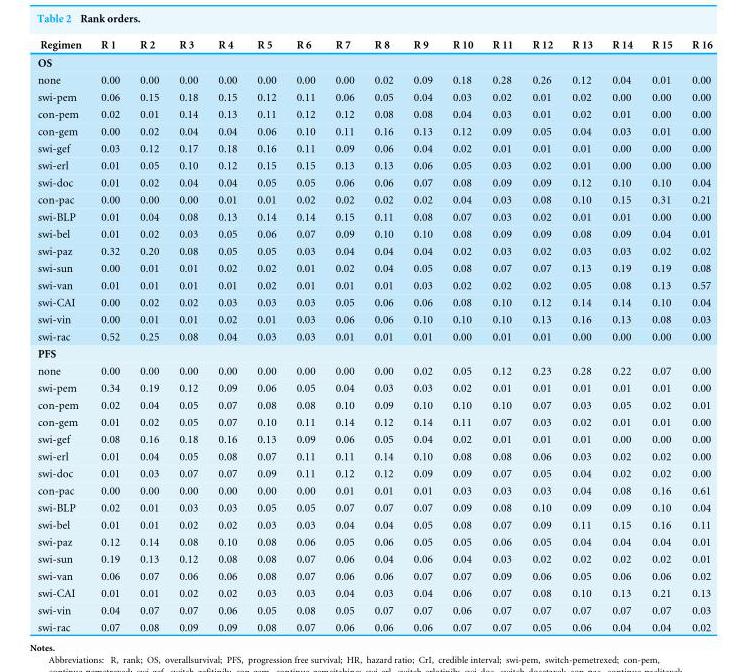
<table><thead><tr><td>Regimen</td><td>R 1</td><td>R 2</td><td>R 3</td><td>R 4</td><td>R 5</td><td>R 6</td><td>R 7</td><td>R 8</td><td>R 9</td><td>R 10</td><td>R 11</td><td>R 12</td><td>R 13</td><td>R 14</td><td>R 15</td><td>R 16</td></tr></thead><tbody><tr><td colspan="17">OS</td></tr><tr><td>none</td><td>0.00</td><td>0.00</td><td>0.00</td><td>0.00</td><td>0.00</td><td>0.00</td><td>0.00</td><td>0.02</td><td>0.09</td><td>0.18</td><td>0.28</td><td>0.26</td><td>0.12</td><td>0.04</td><td>0.01</td><td>0.00</td></tr><tr><td>swi-pem</td><td>0.06</td><td>0.15</td><td>0.18</td><td>0.15</td><td>0.12</td><td>0.11</td><td>0.06</td><td>0.05</td><td>0.04</td><td>0.03</td><td>0.02</td><td>0.01</td><td>0.02</td><td>0.00</td><td>0.00</td><td>0.00</td></tr><tr><td>con-pem</td><td>0.02</td><td>0.01</td><td>0.14</td><td>0.13</td><td>0.11</td><td>0.12</td><td>0.12</td><td>0.08</td><td>0.08</td><td>0.04</td><td>0.03</td><td>0.01</td><td>0.02</td><td>0.01</td><td>0.00</td><td>0.00</td></tr><tr><td>con-gem</td><td>0.00</td><td>0.02</td><td>0.04</td><td>0.04</td><td>0.06</td><td>0.10</td><td>0.11</td><td>0.16</td><td>0.13</td><td>0.12</td><td>0.09</td><td>0.05</td><td>0.04</td><td>0.03</td><td>0.01</td><td>0.00</td></tr><tr><td>swi-gef</td><td>0.03</td><td>0.12</td><td>0.17</td><td>0.18</td><td>0.16</td><td>0.11</td><td>0.09</td><td>0.06</td><td>0.04</td><td>0.02</td><td>0.01</td><td>0.01</td><td>0.01</td><td>0.00</td><td>0.00</td><td>0.00</td></tr><tr><td>swi-erl</td><td>0.01</td><td>0.05</td><td>0.10</td><td>0.12</td><td>0.15</td><td>0.15</td><td>0.13</td><td>0.13</td><td>0.06</td><td>0.05</td><td>0.03</td><td>0.02</td><td>0.01</td><td>0.00</td><td>0.00</td><td>0.00</td></tr><tr><td>swi-doc</td><td>0.01</td><td>0.02</td><td>0.04</td><td>0.04</td><td>0.05</td><td>0.05</td><td>0.06</td><td>0.06</td><td>0.07</td><td>0.08</td><td>0.09</td><td>0.09</td><td>0.12</td><td>0.10</td><td>0.10</td><td>0.04</td></tr><tr><td>con-pac</td><td>0.00</td><td>0.00</td><td>0.00</td><td>0.01</td><td>0.01</td><td>0.02</td><td>0.02</td><td>0.02</td><td>0.02</td><td>0.04</td><td>0.03</td><td>0.08</td><td>0.10</td><td>0.15</td><td>0.31</td><td>0.21</td></tr><tr><td>swi-BLP</td><td>0.01</td><td>0.04</td><td>0.08</td><td>0.13</td><td>0.14</td><td>0.14</td><td>0.15</td><td>0.11</td><td>0.08</td><td>0.07</td><td>0.03</td><td>0.02</td><td>0.01</td><td>0.01</td><td>0.00</td><td>0.00</td></tr><tr><td>swi-bel</td><td>0.01</td><td>0.02</td><td>0.03</td><td>0.05</td><td>0.06</td><td>0.07</td><td>0.09</td><td>0.10</td><td>0.10</td><td>0.08</td><td>0.09</td><td>0.09</td><td>0.08</td><td>0.09</td><td>0.04</td><td>0.01</td></tr><tr><td>swi-paz</td><td>0.32</td><td>0.20</td><td>0.08</td><td>0.05</td><td>0.05</td><td>0.03</td><td>0.04</td><td>0.04</td><td>0.04</td><td>0.02</td><td>0.03</td><td>0.02</td><td>0.03</td><td>0.03</td><td>0.02</td><td>0.02</td></tr><tr><td>swi-sun</td><td>0.00</td><td>0.01</td><td>0.01</td><td>0.02</td><td>0.02</td><td>0.01</td><td>0.02</td><td>0.04</td><td>0.05</td><td>0.08</td><td>0.07</td><td>0.07</td><td>0.13</td><td>0.19</td><td>0.19</td><td>0.08</td></tr><tr><td>swi-van</td><td>0.01</td><td>0.01</td><td>0.01</td><td>0.01</td><td>0.02</td><td>0.01</td><td>0.01</td><td>0.01</td><td>0.03</td><td>0.02</td><td>0.02</td><td>0.02</td><td>0.05</td><td>0.08</td><td>0.13</td><td>0.57</td></tr><tr><td>swi-CAI</td><td>0.00</td><td>0.02</td><td>0.02</td><td>0.03</td><td>0.03</td><td>0.03</td><td>0.05</td><td>0.06</td><td>0.06</td><td>0.08</td><td>0.10</td><td>0.12</td><td>0.14</td><td>0.14</td><td>0.10</td><td>0.04</td></tr><tr><td>swi-vin</td><td>0.00</td><td>0.01</td><td>0.01</td><td>0.02</td><td>0.01</td><td>0.03</td><td>0.06</td><td>0.06</td><td>0.10</td><td>0.10</td><td>0.10</td><td>0.13</td><td>0.16</td><td>0.13</td><td>0.08</td><td>0.03</td></tr><tr><td>swi-rac</td><td>0.52</td><td>0.25</td><td>0.08</td><td>0.04</td><td>0.03</td><td>0.03</td><td>0.01</td><td>0.01</td><td>0.01</td><td>0.00</td><td>0.01</td><td>0.01</td><td>0.00</td><td>0.00</td><td>0.00</td><td>0.00</td></tr><tr><td colspan="17">PFS</td></tr><tr><td>none</td><td>0.00</td><td>0.00</td><td>0.00</td><td>0.00</td><td>0.00</td><td>0.00</td><td>0.00</td><td>0.00</td><td>0.02</td><td>0.05</td><td>0.12</td><td>0.23</td><td>0.28</td><td>0.22</td><td>0.07</td><td>0.00</td></tr><tr><td>swi-pem</td><td>0.34</td><td>0.19</td><td>0.12</td><td>0.09</td><td>0.06</td><td>0.05</td><td>0.04</td><td>0.03</td><td>0.03</td><td>0.02</td><td>0.01</td><td>0.01</td><td>0.01</td><td>0.01</td><td>0.01</td><td>0.00</td></tr><tr><td>con-pem</td><td>0.02</td><td>0.04</td><td>0.05</td><td>0.07</td><td>0.08</td><td>0.08</td><td>0.10</td><td>0.09</td><td>0.10</td><td>0.10</td><td>0.10</td><td>0.07</td><td>0.03</td><td>0.05</td><td>0.02</td><td>0.01</td></tr><tr><td>con-gem</td><td>0.01</td><td>0.02</td><td>0.05</td><td>0.07</td><td>0.10</td><td>0.11</td><td>0.14</td><td>0.12</td><td>0.14</td><td>0.11</td><td>0.07</td><td>0.03</td><td>0.02</td><td>0.01</td><td>0.01</td><td>0.00</td></tr><tr><td>swi-gef</td><td>0.08</td><td>0.16</td><td>0.18</td><td>0.16</td><td>0.13</td><td>0.09</td><td>0.06</td><td>0.05</td><td>0.04</td><td>0.02</td><td>0.01</td><td>0.01</td><td>0.01</td><td>0.00</td><td>0.00</td><td>0.00</td></tr><tr><td>swi-erl</td><td>0.01</td><td>0.04</td><td>0.05</td><td>0.08</td><td>0.07</td><td>0.11</td><td>0.11</td><td>0.14</td><td>0.10</td><td>0.08</td><td>0.08</td><td>0.06</td><td>0.03</td><td>0.02</td><td>0.02</td><td>0.00</td></tr><tr><td>swi-doc</td><td>0.01</td><td>0.03</td><td>0.07</td><td>0.07</td><td>0.09</td><td>0.11</td><td>0.12</td><td>0.12</td><td>0.09</td><td>0.09</td><td>0.07</td><td>0.05</td><td>0.04</td><td>0.02</td><td>0.02</td><td>0.00</td></tr><tr><td>con-pac</td><td>0.00</td><td>0.00</td><td>0.00</td><td>0.00</td><td>0.00</td><td>0.00</td><td>0.01</td><td>0.01</td><td>0.01</td><td>0.03</td><td>0.03</td><td>0.03</td><td>0.04</td><td>0.08</td><td>0.16</td><td>0.61</td></tr><tr><td>swi-BLP</td><td>0.02</td><td>0.01</td><td>0.03</td><td>0.03</td><td>0.05</td><td>0.05</td><td>0.07</td><td>0.07</td><td>0.07</td><td>0.09</td><td>0.08</td><td>0.10</td><td>0.09</td><td>0.09</td><td>0.10</td><td>0.04</td></tr><tr><td>swi-bel</td><td>0.01</td><td>0.01</td><td>0.02</td><td>0.02</td><td>0.03</td><td>0.03</td><td>0.04</td><td>0.04</td><td>0.05</td><td>0.08</td><td>0.07</td><td>0.09</td><td>0.11</td><td>0.15</td><td>0.16</td><td>0.11</td></tr><tr><td>swi-paz</td><td>0.12</td><td>0.14</td><td>0.08</td><td>0.10</td><td>0.08</td><td>0.06</td><td>0.05</td><td>0.06</td><td>0.05</td><td>0.05</td><td>0.06</td><td>0.05</td><td>0.04</td><td>0.04</td><td>0.04</td><td>0.01</td></tr><tr><td>swi-sun</td><td>0.19</td><td>0.13</td><td>0.12</td><td>0.08</td><td>0.08</td><td>0.07</td><td>0.06</td><td>0.04</td><td>0.06</td><td>0.04</td><td>0.03</td><td>0.02</td><td>0.02</td><td>0.02</td><td>0.02</td><td>0.01</td></tr><tr><td>swi-van</td><td>0.06</td><td>0.07</td><td>0.06</td><td>0.06</td><td>0.08</td><td>0.07</td><td>0.06</td><td>0.06</td><td>0.07</td><td>0.07</td><td>0.09</td><td>0.06</td><td>0.05</td><td>0.06</td><td>0.06</td><td>0.02</td></tr><tr><td>swi-CAI</td><td>0.01</td><td>0.01</td><td>0.02</td><td>0.02</td><td>0.03</td><td>0.03</td><td>0.04</td><td>0.03</td><td>0.04</td><td>0.06</td><td>0.07</td><td>0.08</td><td>0.10</td><td>0.13</td><td>0.21</td><td>0.13</td></tr><tr><td>swi-vin</td><td>0.04</td><td>0.07</td><td>0.07</td><td>0.06</td><td>0.05</td><td>0.08</td><td>0.05</td><td>0.07</td><td>0.07</td><td>0.06</td><td>0.07</td><td>0.07</td><td>0.07</td><td>0.07</td><td>0.07</td><td>0.03</td></tr><tr><td>swi-rac</td><td>0.07</td><td>0.08</td><td>0.09</td><td>0.09</td><td>0.08</td><td>0.07</td><td>0.06</td><td>0.06</td><td>0.06</td><td>0.07</td><td>0.07</td><td>0.05</td><td>0.06</td><td>0.04</td><td>0.04</td><td>0.02</td></tr></tbody></table>